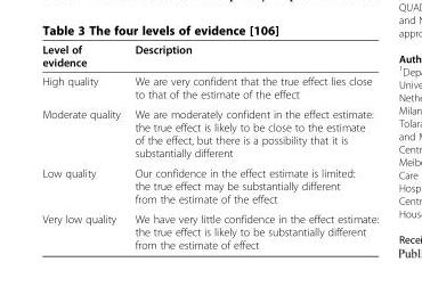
<table><thead><tr><td>Level of evidence</td><td>Description</td></tr></thead><tbody><tr><td>High quality</td><td>We are very confident that the true effect lies close to that of the estimate of the effect</td></tr><tr><td>Moderate quality</td><td>We are moderately confident in the effect estimate: the true effect is likely to be close to the estimate of the effect, but there is a possibility that it is substantially different</td></tr><tr><td>Low quality</td><td>Our confidence in the effect estimate is limited: the true effect may be substantially different from the estimate of the effect</td></tr><tr><td>Very low quality</td><td>We have very little confidence in the effect estimate: the true effect is likely to be substantially different from the estimate of effect</td></tr></tbody></table>